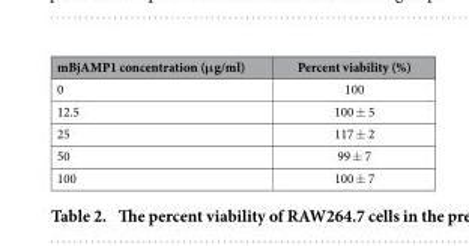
<table><thead><tr><td>mBjAMP1 concentration (μ g/ml)</td><td>Percent viability (%)</td></tr></thead><tbody><tr><td>0</td><td>100</td></tr><tr><td>12.5</td><td>100 ± 5</td></tr><tr><td>25</td><td>117 ± 2</td></tr><tr><td>50</td><td>99 ± 7</td></tr><tr><td>100</td><td>100 ± 7</td></tr></tbody></table>